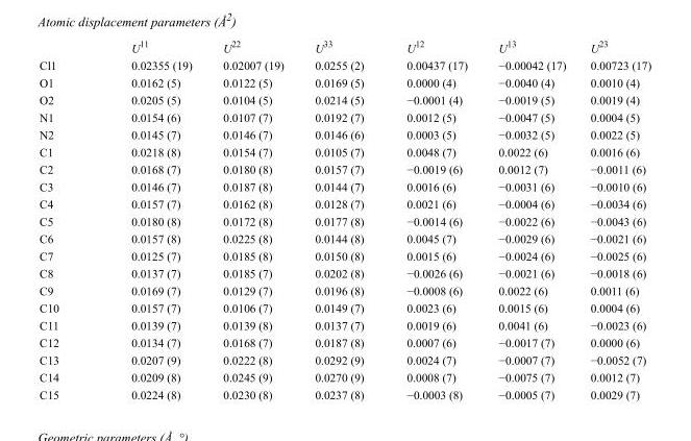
<table><thead><tr><td></td><td>U<sup>11</sup></td><td>U<sup>22</sup></td><td>U<sup>33</sup></td><td>U<sup>12</sup></td><td>U<sup>13</sup></td><td>U<sup>23</sup></td></tr></thead><tbody><tr><td>Cl1</td><td>0.02355 (19)</td><td>0.02007 (19)</td><td>0.0255 (2)</td><td>0.00437 (17)</td><td>−0.00042 (17)</td><td>0.00723 (17)</td></tr><tr><td>O1</td><td>0.0162 (5)</td><td>0.0122 (5)</td><td>0.0169 (5)</td><td>0.0000 (4)</td><td>−0.0040 (4)</td><td>0.0010 (4)</td></tr><tr><td>O2</td><td>0.0205 (5)</td><td>0.0104 (5)</td><td>0.0214 (5)</td><td>−0.0001 (4)</td><td>−0.0019 (5)</td><td>0.0019 (4)</td></tr><tr><td>N1</td><td>0.0154 (6)</td><td>0.0107 (7)</td><td>0.0192 (7)</td><td>0.0012 (5)</td><td>−0.0047 (5)</td><td>0.0004 (5)</td></tr><tr><td>N2</td><td>0.0145 (7)</td><td>0.0146 (7)</td><td>0.0146 (6)</td><td>0.0003 (5)</td><td>−0.0032 (5)</td><td>0.0022 (5)</td></tr><tr><td>C1</td><td>0.0218 (8)</td><td>0.0154 (7)</td><td>0.0105 (7)</td><td>0.0048 (7)</td><td>0.0022 (6)</td><td>0.0016 (6)</td></tr><tr><td>C2</td><td>0.0168 (7)</td><td>0.0180 (8)</td><td>0.0157 (7)</td><td>−0.0019 (6)</td><td>0.0012 (7)</td><td>−0.0011 (6)</td></tr><tr><td>C3</td><td>0.0146 (7)</td><td>0.0187 (8)</td><td>0.0144 (7)</td><td>0.0016 (6)</td><td>−0.0031 (6)</td><td>−0.0010 (6)</td></tr><tr><td>C4</td><td>0.0157 (7)</td><td>0.0162 (8)</td><td>0.0128 (7)</td><td>0.0021 (6)</td><td>−0.0004 (6)</td><td>−0.0034 (6)</td></tr><tr><td>C5</td><td>0.0180 (8)</td><td>0.0172 (8)</td><td>0.0177 (8)</td><td>−0.0014 (6)</td><td>−0.0022 (6)</td><td>−0.0043 (6)</td></tr><tr><td>C6</td><td>0.0157 (8)</td><td>0.0225 (8)</td><td>0.0144 (8)</td><td>0.0045 (7)</td><td>−0.0029 (6)</td><td>−0.0021 (6)</td></tr><tr><td>C7</td><td>0.0125 (7)</td><td>0.0185 (8)</td><td>0.0150 (8)</td><td>0.0015 (6)</td><td>−0.0024 (6)</td><td>−0.0025 (6)</td></tr><tr><td>C8</td><td>0.0137 (7)</td><td>0.0185 (7)</td><td>0.0202 (8)</td><td>−0.0026 (6)</td><td>−0.0021 (6)</td><td>−0.0018 (6)</td></tr><tr><td>C9</td><td>0.0169 (7)</td><td>0.0129 (7)</td><td>0.0196 (8)</td><td>−0.0008 (6)</td><td>0.0022 (6)</td><td>0.0011 (6)</td></tr><tr><td>C10</td><td>0.0157 (7)</td><td>0.0106 (7)</td><td>0.0149 (7)</td><td>0.0023 (6)</td><td>0.0015 (6)</td><td>0.0004 (6)</td></tr><tr><td>C11</td><td>0.0139 (7)</td><td>0.0139 (8)</td><td>0.0137 (7)</td><td>0.0019 (6)</td><td>0.0041 (6)</td><td>−0.0023 (6)</td></tr><tr><td>C12</td><td>0.0134 (7)</td><td>0.0168 (7)</td><td>0.0187 (8)</td><td>0.0007 (6)</td><td>−0.0017 (7)</td><td>0.0000 (6)</td></tr><tr><td>C13</td><td>0.0207 (9)</td><td>0.0222 (8)</td><td>0.0292 (9)</td><td>0.0024 (7)</td><td>−0.0007 (7)</td><td>−0.0052 (7)</td></tr><tr><td>C14</td><td>0.0209 (8)</td><td>0.0245 (9)</td><td>0.0270 (9)</td><td>0.0008 (7)</td><td>−0.0075 (7)</td><td>0.0012 (7)</td></tr><tr><td>C15</td><td>0.0224 (8)</td><td>0.0230 (8)</td><td>0.0237 (8)</td><td>−0.0003 (8)</td><td>−0.0005 (7)</td><td>0.0029 (7)</td></tr></tbody></table>